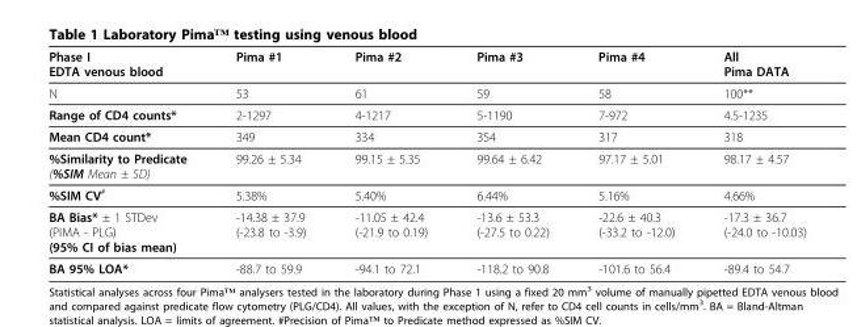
<table><thead><tr><td>Phase I EDTA venous blood</td><td>Pima #1</td><td>Pima #2</td><td>Pima #3</td><td>Pima #4</td><td>All Pima DATA</td></tr></thead><tbody><tr><td>N</td><td>53</td><td>61</td><td>59</td><td>58</td><td>100**</td></tr><tr><td>Range of CD4 counts*</td><td>2-1297</td><td>4-1217</td><td>5-1190</td><td>7-972</td><td>4.5-1235</td></tr><tr><td>Mean CD4 count*</td><td>349</td><td>334</td><td>354</td><td>317</td><td>318</td></tr><tr><td>%Similarity to Predicate (%SIM Mean ± SD)</td><td>99.26 ± 5.34</td><td>99.15 ± 5.35</td><td>99.64 ± 6.42</td><td>97.17 ± 5.01</td><td>98.17 ± 4.57</td></tr><tr><td>%SIM CV<sup>#</sup></td><td>5.38%</td><td>5.40%</td><td>6.44%</td><td>5.16%</td><td>4.66%</td></tr><tr><td>BA Bias* ± 1 STDev (PIMA - PLG) (95% CI of bias mean)</td><td>-14.38 ± 37.9 (-23.8 to -3.9)</td><td>-11.05 ± 42.4 (-21.9 to 0.19)</td><td>-13.6 ± 53.3 (-27.5 to 0.22)</td><td>-22.6 ± 40.3 (-33.2 to -12.0)</td><td>-17.3 ± 36.7 (-24.0 to -10.03)</td></tr><tr><td>BA 95% LOA*</td><td>-88.7 to 59.9</td><td>-94.1 to 72.1</td><td>-118.2 to 90.8</td><td>-101.6 to 56.4</td><td>-89.4 to 54.7</td></tr></tbody></table>